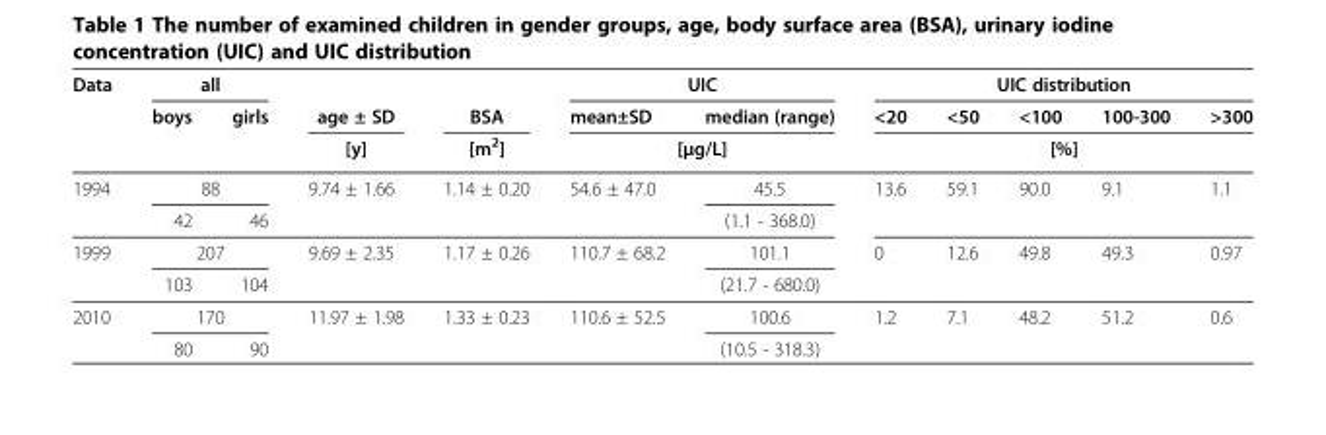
<table><thead><tr><td rowspan="3">Data</td><td colspan="2">all</td><td rowspan="3">age ± SD [y]</td><td rowspan="3">BSA [m<sup>2</sup>]</td><td colspan="2">UIC</td><td colspan="5">UIC distribution</td></tr><tr><td rowspan="2">boys</td><td rowspan="2">girls</td><td>mean±SD</td><td>median (range)</td><td>&lt;20</td><td>&lt;50</td><td>&lt;100</td><td>100-300</td><td>&gt;300</td></tr><tr><td colspan="2">[μg/L]</td><td colspan="5">[%]</td></tr></thead><tbody><tr><td rowspan="2">1994</td><td colspan="2">88</td><td>9.74 ± 1.66</td><td>1.14 ± 0.20</td><td>54.6 ± 47.0</td><td>45.5</td><td>13.6</td><td>59.1</td><td>90.0</td><td>9.1</td><td>1.1</td></tr><tr><td>42</td><td>46</td><td></td><td></td><td></td><td>(1.1 - 368.0)</td><td></td><td></td><td></td><td></td><td></td></tr><tr><td rowspan="2">1999</td><td colspan="2">207</td><td>9.69 ± 2.35</td><td>1.17 ± 0.26</td><td>110.7 ± 68.2</td><td>101.1</td><td>0</td><td>12.6</td><td>49.8</td><td>49.3</td><td>0.97</td></tr><tr><td>103</td><td>104</td><td></td><td></td><td></td><td>(21.7 - 680.0)</td><td></td><td></td><td></td><td></td><td></td></tr><tr><td rowspan="2">2010</td><td colspan="2">170</td><td>11.97 ± 1.98</td><td>1.33 ± 0.23</td><td>110.6 ± 52.5</td><td>100.6</td><td>1.2</td><td>7.1</td><td>48.2</td><td>51.2</td><td>0.6</td></tr><tr><td>80</td><td>90</td><td></td><td></td><td></td><td>(10.5 - 318.3)</td><td></td><td></td><td></td><td></td><td></td></tr></tbody></table>